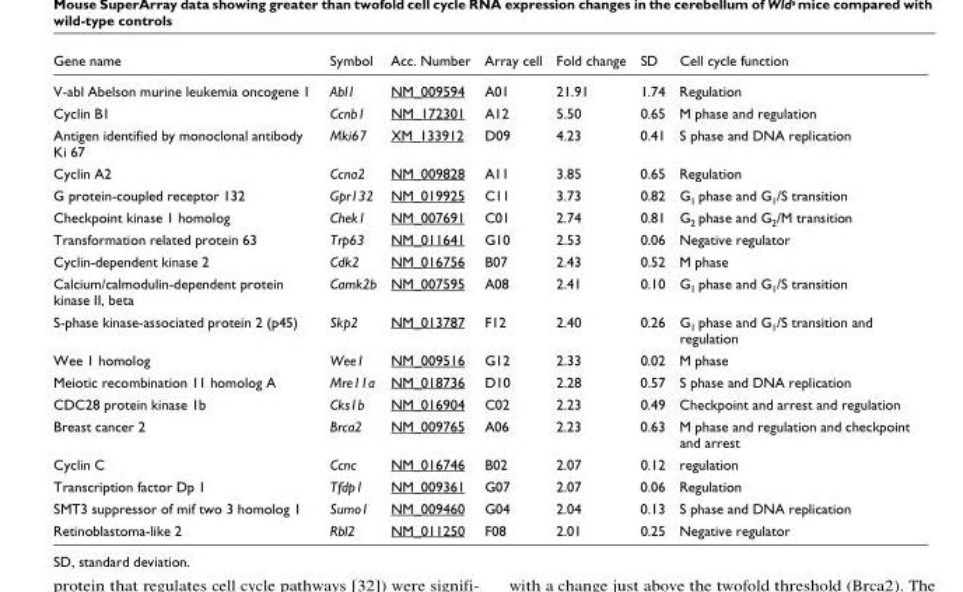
<table><thead><tr><td>Gene name</td><td>Symbol</td><td>Acc. Number</td><td>Array cell</td><td>Fold change</td><td>SD</td><td>Cell cycle function</td></tr></thead><tbody><tr><td>V-abl Abelson murine leukemia oncogene 1</td><td>Abl1</td><td>NM_009594</td><td>A01</td><td>21.91</td><td>1.74</td><td>Regulation</td></tr><tr><td>Cyclin B1</td><td>Ccnb1</td><td>NM_172301</td><td>A12</td><td>5.50</td><td>0.65</td><td>M phase and regulation</td></tr><tr><td>Antigen identified by monoclonal antibody Ki 67</td><td>Mki67</td><td>XM_133912</td><td>D09</td><td>4.23</td><td>0.41</td><td>S phase and DNA replication</td></tr><tr><td>Cyclin A2</td><td>Ccna2</td><td>NM_009828</td><td>A11</td><td>3.85</td><td>0.65</td><td>Regulation</td></tr><tr><td>G protein-coupled receptor 132</td><td>Gpr132</td><td>NM_019925</td><td>C11</td><td>3.73</td><td>0.82</td><td>G<sub>1</sub> phase and G<sub>1</sub>/S transition</td></tr><tr><td>Checkpoint kinase 1 homolog</td><td>Chek1</td><td>NM_007691</td><td>C01</td><td>2.74</td><td>0.81</td><td>G<sub>2</sub> phase and G<sub>2</sub>/M transition</td></tr><tr><td>Transformation related protein 63</td><td>Trp63</td><td>NM_011641</td><td>G10</td><td>2.53</td><td>0.06</td><td>Negative regulator</td></tr><tr><td>Cyclin-dependent kinase 2</td><td>Cdk2</td><td>NM_016756</td><td>B07</td><td>2.43</td><td>0.52</td><td>M phase</td></tr><tr><td>Calcium/calmodulin-dependent protein kinase II, beta</td><td>Camk2b</td><td>NM_007595</td><td>A08</td><td>2.41</td><td>0.10</td><td>G<sub>1</sub> phase and G<sub>1</sub>/S transition</td></tr><tr><td>S-phase kinase-associated protein 2 (p45)</td><td>Skp2</td><td>NM_013787</td><td>F12</td><td>2.40</td><td>0.26</td><td>G<sub>1</sub> phase and G<sub>1</sub>/S transition and regulation</td></tr><tr><td>Wee 1 homolog</td><td>Wee1</td><td>NM_009516</td><td>G12</td><td>2.33</td><td>0.02</td><td>M phase</td></tr><tr><td>Meiotic recombination 11 homolog A</td><td>Mre11a</td><td>NM_018736</td><td>D10</td><td>2.28</td><td>0.57</td><td>S phase and DNA replication</td></tr><tr><td>CDC28 protein kinase 1b</td><td>Cks1b</td><td>NM_016904</td><td>C02</td><td>2.23</td><td>0.49</td><td>Checkpoint and arrest and regulation</td></tr><tr><td>Breast cancer 2</td><td>Brca2</td><td>NM_009765</td><td>A06</td><td>2.23</td><td>0.63</td><td>M phase and regulation and checkpoint and arrest</td></tr><tr><td>Cyclin C</td><td>Ccnc</td><td>NM_016746</td><td>B02</td><td>2.07</td><td>0.12</td><td>regulation</td></tr><tr><td>Transcription factor Dp 1</td><td>Tfdp1</td><td>NM_009361</td><td>G07</td><td>2.07</td><td>0.06</td><td>Regulation</td></tr><tr><td>SMT3 suppressor of mif two 3 homolog 1</td><td>Sumo1</td><td>NM_009460</td><td>G04</td><td>2.04</td><td>0.13</td><td>S phase and DNA replication</td></tr><tr><td>Retinoblastoma-like 2</td><td>Rbl2</td><td>NM_011250</td><td>F08</td><td>2.01</td><td>0.25</td><td>Negative regulator</td></tr></tbody></table>